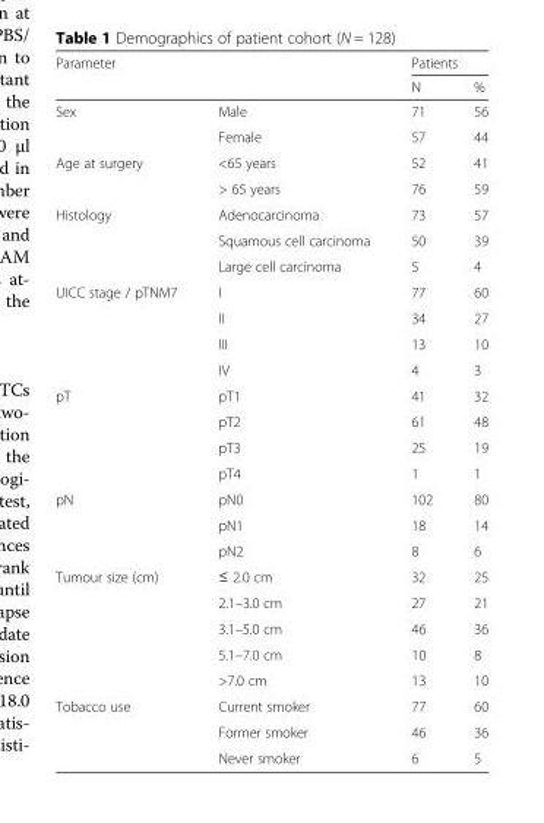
<table><thead><tr><td rowspan="2">Parameter</td><td rowspan="2"></td><td colspan="2">Patients</td></tr><tr><td>N</td><td>%</td></tr></thead><tbody><tr><td rowspan="2">Sex</td><td>Male</td><td>71</td><td>56</td></tr><tr><td>Female</td><td>57</td><td>44</td></tr><tr><td rowspan="2">Age at surgery</td><td>&lt;65 years</td><td>52</td><td>41</td></tr><tr><td>&gt; 65 years</td><td>76</td><td>59</td></tr><tr><td rowspan="3">Histology</td><td>Adenocarcinoma</td><td>73</td><td>57</td></tr><tr><td>Squamous cell carcinoma</td><td>50</td><td>39</td></tr><tr><td>Large cell carcinoma</td><td>5</td><td>4</td></tr><tr><td rowspan="4">UICC stage / pTNM7</td><td>I</td><td>77</td><td>60</td></tr><tr><td>II</td><td>34</td><td>27</td></tr><tr><td>III</td><td>13</td><td>10</td></tr><tr><td>IV</td><td>4</td><td>3</td></tr><tr><td rowspan="4">pT</td><td>pT1</td><td>41</td><td>32</td></tr><tr><td>pT2</td><td>61</td><td>48</td></tr><tr><td>pT3</td><td>25</td><td>19</td></tr><tr><td>pT4</td><td>1</td><td>1</td></tr><tr><td rowspan="3">pN</td><td>pN0</td><td>102</td><td>80</td></tr><tr><td>pN1</td><td>18</td><td>14</td></tr><tr><td>pN2</td><td>8</td><td>6</td></tr><tr><td rowspan="5">Tumour size (cm)</td><td>≤ 2.0 cm</td><td>32</td><td>25</td></tr><tr><td>2.1–3.0 cm</td><td>27</td><td>21</td></tr><tr><td>3.1–5.0 cm</td><td>46</td><td>36</td></tr><tr><td>5.1–7.0 cm</td><td>10</td><td>8</td></tr><tr><td>&gt;7.0 cm</td><td>13</td><td>10</td></tr><tr><td rowspan="3">Tobacco use</td><td>Current smoker</td><td>77</td><td>60</td></tr><tr><td>Former smoker</td><td>46</td><td>36</td></tr><tr><td>Never smoker</td><td>6</td><td>5</td></tr></tbody></table>